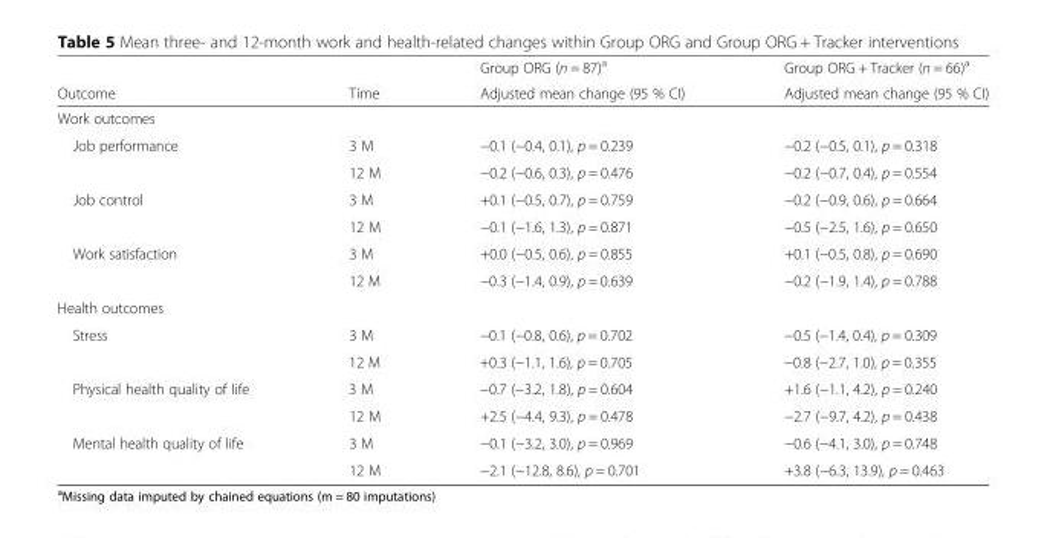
<table><thead><tr><td rowspan="2">Outcome</td><td rowspan="2">Time</td><td rowspan="2">Group ORG (n = 87)<sup>a</sup> Adjusted mean change (95 % CI)</td><td rowspan="2">Group ORG + Tracker (n = 66)<sup>a</sup> Adjusted mean change (95 % CI)</td></tr><tr></tr></thead><tbody><tr><td colspan="4">Work outcomes</td></tr><tr><td rowspan="2">Job performance</td><td>3 M</td><td>−0.1 (−0.4, 0.1), p = 0.239</td><td>−0.2 (−0.5, 0.1), p = 0.318</td></tr><tr><td>12 M</td><td>−0.2 (−0.6, 0.3), p = 0.476</td><td>−0.2 (−0.7, 0.4), p = 0.554</td></tr><tr><td rowspan="2">Job control</td><td>3 M</td><td>+0.1 (−0.5, 0.7), p = 0.759</td><td>−0.2 (−0.9, 0.6), p = 0.664</td></tr><tr><td>12 M</td><td>−0.1 (−1.6, 1.3), p = 0.871</td><td>−0.5 (−2.5, 1.6), p = 0.650</td></tr><tr><td rowspan="2">Work satisfaction</td><td>3 M</td><td>+0.0 (−0.5, 0.6), p = 0.855</td><td>+0.1 (−0.5, 0.8), p = 0.690</td></tr><tr><td>12 M</td><td>−0.3 (−1.4, 0.9), p = 0.639</td><td>−0.2 (−1.9, 1.4), p = 0.788</td></tr><tr><td colspan="4">Health outcomes</td></tr><tr><td rowspan="2">Stress</td><td>3 M</td><td>−0.1 (−0.8, 0.6), p = 0.702</td><td>−0.5 (−1.4, 0.4), p = 0.309</td></tr><tr><td>12 M</td><td>+0.3 (−1.1, 1.6), p = 0.705</td><td>−0.8 (−2.7, 1.0), p = 0.355</td></tr><tr><td rowspan="2">Physical health quality of life</td><td>3 M</td><td>−0.7 (−3.2, 1.8), p = 0.604</td><td>+1.6 (−1.1, 4.2), p = 0.240</td></tr><tr><td>12 M</td><td>+2.5 (−4.4, 9.3), p = 0.478</td><td>−2.7 (−9.7, 4.2), p = 0.438</td></tr><tr><td rowspan="2">Mental health quality of life</td><td>3 M</td><td>−0.1 (−3.2, 3.0), p = 0.969</td><td>−0.6 (−4.1, 3.0), p = 0.748</td></tr><tr><td>12 M</td><td>−2.1 (−12.8, 8.6), p = 0.701</td><td>+3.8 (−6.3, 13.9), p = 0.463</td></tr></tbody></table>